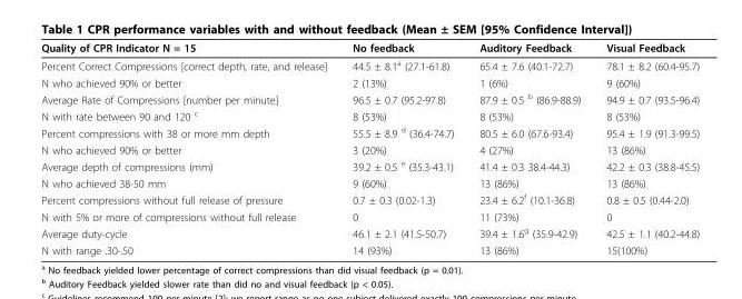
<table><thead><tr><td>Quality of CPR Indicator N = 15</td><td>No feedback</td><td>Auditory Feedback</td><td>Visual Feedback</td></tr></thead><tbody><tr><td>Percent Correct Compressions [correct depth, rate, and release]</td><td>44.5 ± 8.1<sup>a</sup> (27.1-61.8)</td><td>65.4 ± 7.6 (40.1-72.7)</td><td>78.1 ± 8.2 (60.4-95.7)</td></tr><tr><td>N who achieved 90% or better</td><td>2 (13%)</td><td>1 (6%)</td><td>9 (60%)</td></tr><tr><td>Average Rate of Compressions [number per minute]</td><td>96.5 ± 0.7 (95.2-97.8)</td><td>87.9 ± 0.5 <sup>b</sup> (86.9-88.9)</td><td>94.9 ± 0.7 (93.5-96.4)</td></tr><tr><td>N with rate between 90 and 120 <sup>c</sup></td><td>8 (53%)</td><td>8 (53%)</td><td>8 (53%)</td></tr><tr><td>Percent compressions with 38 or more mm depth</td><td>55.5 ± 8.9 <sup>d</sup> (36.4-74.7)</td><td>80.5 ± 6.0 (67.6-93.4)</td><td>95.4 ± 1.9 (91.3-99.5)</td></tr><tr><td>N who achieved 90% or better</td><td>3 (20%)</td><td>4 (27%)</td><td>13 (86%)</td></tr><tr><td>Average depth of compressions (mm)</td><td>39.2 ± 0.5 <sup>e</sup> (35.3-43.1)</td><td>41.4 ± 0.3 38.4-44.3)</td><td>42.2 ± 0.3 (38.8-45.5)</td></tr><tr><td>N who achieved 38-50 mm</td><td>9 (60%)</td><td>13 (86%)</td><td>13 (86%)</td></tr><tr><td>Percent compressions without full release of pressure</td><td>0.7 ± 0.3 (0.02-1.3)</td><td>23.4 ± 6.2<sup>f</sup> (10.1-36.8)</td><td>0.8 ± 0.5 (0.44-2.0)</td></tr><tr><td>N with 5% or more of compressions without full release</td><td>0</td><td>11 (73%)</td><td>0</td></tr><tr><td>Average duty-cycle</td><td>46.1 ± 2.1 (41.5-50.7)</td><td>39.4 ± 1.6<sup>g</sup> (35.9-42.9)</td><td>42.5 ± 1.1 (40.2-44.8)</td></tr><tr><td>N with range .30-.50</td><td>14 (93%)</td><td>13 (86%)</td><td>15(100%)</td></tr></tbody></table>